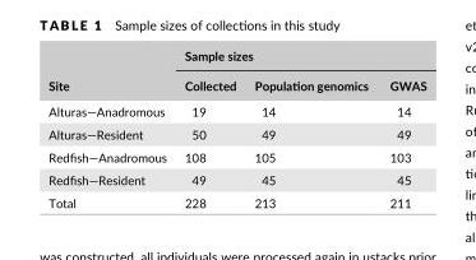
<table><thead><tr><td rowspan="2">Site</td><td colspan="3">Sample sizes</td></tr><tr><td>Collected</td><td>Population genomics</td><td>GWAS</td></tr></thead><tbody><tr><td>Alturas—Anadromous</td><td>19</td><td>14</td><td>14</td></tr><tr><td>Alturas—Resident</td><td>50</td><td>49</td><td>49</td></tr><tr><td>Redfish—Anadromous</td><td>108</td><td>105</td><td>103</td></tr><tr><td>Redfish—Resident</td><td>49</td><td>45</td><td>45</td></tr><tr><td>Total</td><td>228</td><td>213</td><td>211</td></tr></tbody></table>